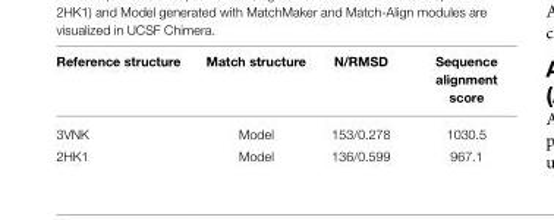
<table><thead><tr><td>Reference structure</td><td>Match structure</td><td>N/RMSD</td><td>Sequence alignment score</td></tr></thead><tbody><tr><td>3VNK</td><td>Model</td><td>153/0.278</td><td>1030.5</td></tr><tr><td>2HK1</td><td>Model</td><td>136/0.599</td><td>967.1</td></tr></tbody></table>